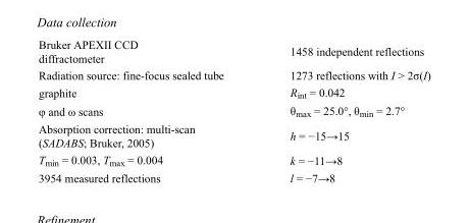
<table><tbody><tr><td>Bruker APEXII CCD diffractometer</td><td>1458 independent reflections</td></tr><tr><td>Radiation source: fine-focus sealed tube</td><td>1273 reflections with I &gt; 2σ(I)</td></tr><tr><td>graphite</td><td>R<sub>int</sub> = 0.042</td></tr><tr><td>φ and ω scans</td><td>θ<sub>max</sub> = 25.0°, θ<sub>min</sub> = 2.7°</td></tr><tr><td>Absorption correction: multi-scan (SADABS; Bruker, 2005)</td><td>h = −15→15</td></tr><tr><td>T<sub>min</sub> = 0.003, T<sub>max</sub> = 0.004</td><td>k = −11→8</td></tr><tr><td>3954 measured reflections</td><td>l = −7→8</td></tr></tbody></table>